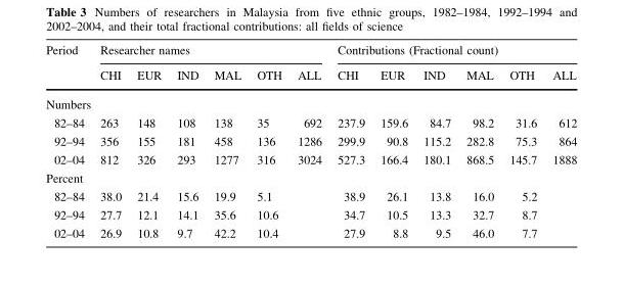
<table><thead><tr><td rowspan="2">Period</td><td colspan="6">Researcher names</td><td colspan="6">Contributions (Fractional count)</td></tr><tr><td>CHI</td><td>EUR</td><td>IND</td><td>MAL</td><td>OTH</td><td>ALL</td><td>CHI</td><td>EUR</td><td>IND</td><td>MAL</td><td>OTH</td><td>ALL</td></tr></thead><tbody><tr><td colspan="13">Numbers</td></tr><tr><td>82–84</td><td>263</td><td>148</td><td>108</td><td>138</td><td>35</td><td>692</td><td>237.9</td><td>159.6</td><td>84.7</td><td>98.2</td><td>31.6</td><td>612</td></tr><tr><td>92–94</td><td>356</td><td>155</td><td>181</td><td>458</td><td>136</td><td>1286</td><td>299.9</td><td>90.8</td><td>115.2</td><td>282.8</td><td>75.3</td><td>864</td></tr><tr><td>02–04</td><td>812</td><td>326</td><td>293</td><td>1277</td><td>316</td><td>3024</td><td>527.3</td><td>166.4</td><td>180.1</td><td>868.5</td><td>145.7</td><td>1888</td></tr><tr><td colspan="13">Percent</td></tr><tr><td>82–84</td><td>38.0</td><td>21.4</td><td>15.6</td><td>19.9</td><td>5.1</td><td></td><td>38.9</td><td>26.1</td><td>13.8</td><td>16.0</td><td>5.2</td><td></td></tr><tr><td>92–94</td><td>27.7</td><td>12.1</td><td>14.1</td><td>35.6</td><td>10.6</td><td></td><td>34.7</td><td>10.5</td><td>13.3</td><td>32.7</td><td>8.7</td><td></td></tr><tr><td>02–04</td><td>26.9</td><td>10.8</td><td>9.7</td><td>42.2</td><td>10.4</td><td></td><td>27.9</td><td>8.8</td><td>9.5</td><td>46.0</td><td>7.7</td><td></td></tr></tbody></table>